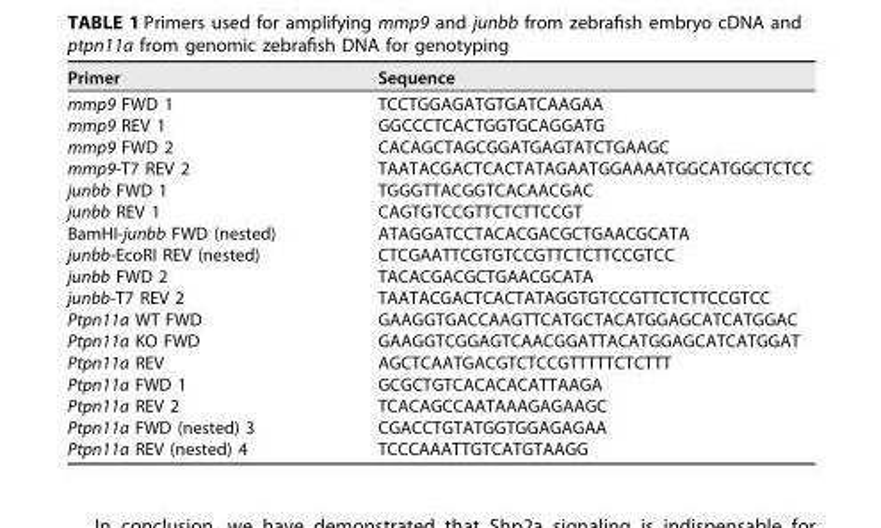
<table><thead><tr><td>Primer</td><td>Sequence</td></tr></thead><tbody><tr><td>mmp9 FWD 1</td><td>TCCTGGAGATGTGATCAAGAA</td></tr><tr><td>mmp9 REV 1</td><td>GGCCCTCACTGGTGCAGGATG</td></tr><tr><td>mmp9 FWD 2</td><td>CACAGCTAGCGGATGAGTATCTGAAGC</td></tr><tr><td>mmp9-T7 REV 2</td><td>TAATACGACTCACTATAGAATGGAAAATGGCATGGCTCTCC</td></tr><tr><td>junbb FWD 1</td><td>TGGGTTACGGTCACAACGAC</td></tr><tr><td>junbb REV 1</td><td>CAGTGTCCGTTCTCTTCCGT</td></tr><tr><td>BamHI-junbb FWD (nested)</td><td>ATAGGATCCTACACGACGCTGAACGCATA</td></tr><tr><td>junbb-EcoRI REV (nested)</td><td>CTCGAATTCGTGTCCGTTCTCTTCCGTCC</td></tr><tr><td>junbb FWD 2</td><td>TACACGACGCTGAACGCATA</td></tr><tr><td>junbb-T7 REV 2</td><td>TAATACGACTCACTATAGGTGTCCGTTCTCTTCCGTCC</td></tr><tr><td>Ptpn11a WT FWD</td><td>GAAGGTGACCAAGTTCATGCTACATGGAGCATCATGGAC</td></tr><tr><td>Ptpn11a KO FWD</td><td>GAAGGTCGGAGTCAACGGATTACATGGAGCATCATGGAT</td></tr><tr><td>Ptpn11a REV</td><td>AGCTCAATGACGTCTCCGTTTTTCTCTTT</td></tr><tr><td>Ptpn11a FWD 1</td><td>GCGCTGTCACACACATTAAGA</td></tr><tr><td>Ptpn11a REV 2</td><td>TCACAGCCAATAAAGAGAAGC</td></tr><tr><td>Ptpn11a FWD (nested) 3</td><td>CGACCTGTATGGTGGAGAGAA</td></tr><tr><td>Ptpn11a REV (nested) 4</td><td>TCCCAAATTGTCATGTAAGG</td></tr></tbody></table>